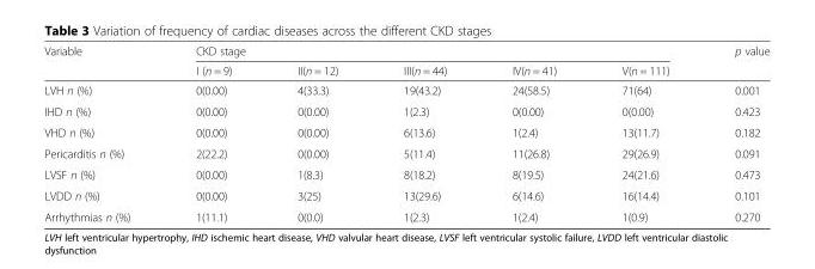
<table><thead><tr><td rowspan="2">Variable</td><td colspan="5">CKD stage</td><td rowspan="2">p value</td></tr><tr><td>I (n = 9)</td><td>II(n = 12)</td><td>III(n = 44)</td><td>IV(n = 41)</td><td>V(n = 111)</td></tr></thead><tbody><tr><td>LVH n (%)</td><td>0(0.00)</td><td>4(33.3)</td><td>19(43.2)</td><td>24(58.5)</td><td>71(64)</td><td>0.001</td></tr><tr><td>IHD n (%)</td><td>0(0.00)</td><td>0(0.00)</td><td>1(2.3)</td><td>0(0.00)</td><td>0(0.00)</td><td>0.423</td></tr><tr><td>VHD n (%)</td><td>0(0.00)</td><td>0(0.00)</td><td>6(13.6)</td><td>1(2.4)</td><td>13(11.7)</td><td>0.182</td></tr><tr><td>Pericarditis n (%)</td><td>2(22.2)</td><td>0(0.00)</td><td>5(11.4)</td><td>11(26.8)</td><td>29(26.9)</td><td>0.091</td></tr><tr><td>LVSF n (%)</td><td>0(0.00)</td><td>1(8.3)</td><td>8(18.2)</td><td>8(19.5)</td><td>24(21.6)</td><td>0.473</td></tr><tr><td>LVDD n (%)</td><td>0(0.00)</td><td>3(25)</td><td>13(29.6)</td><td>6(14.6)</td><td>16(14.4)</td><td>0.101</td></tr><tr><td>Arrhythmias n (%)</td><td>1(11.1)</td><td>0(0.0)</td><td>1(2.3)</td><td>1(2.4)</td><td>1(0.9)</td><td>0.270</td></tr></tbody></table>